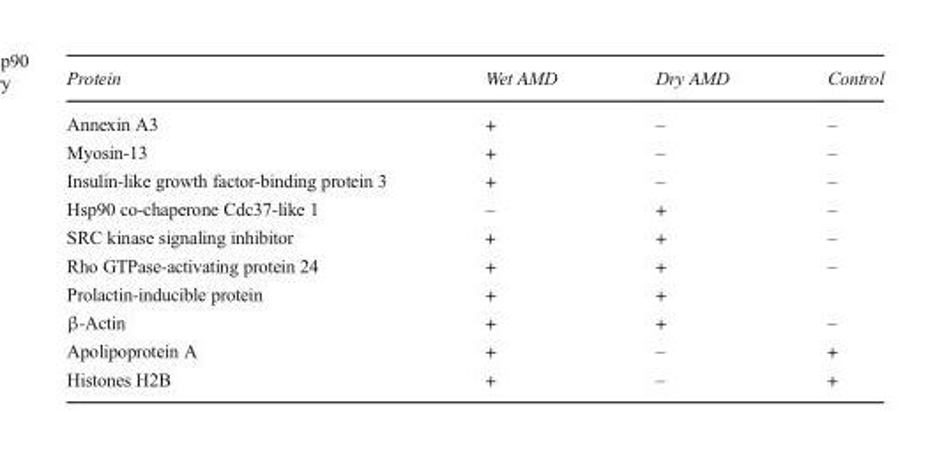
<table><thead><tr><td>Protein</td><td>Wet AMD</td><td>Dry AMD</td><td>Control</td></tr></thead><tbody><tr><td>Annexin A3</td><td>+</td><td>–</td><td>–</td></tr><tr><td>Myosin-13</td><td>+</td><td>–</td><td>–</td></tr><tr><td>Insulin-like growth factor-binding protein 3</td><td>+</td><td>–</td><td>–</td></tr><tr><td>Hsp90 co-chaperone Cdc37-like 1</td><td>–</td><td>+</td><td>–</td></tr><tr><td>SRC kinase signaling inhibitor</td><td>+</td><td>+</td><td>–</td></tr><tr><td>Rho GTPase-activating protein 24</td><td>+</td><td>+</td><td>–</td></tr><tr><td>Prolactin-inducible protein</td><td>+</td><td>+</td><td></td></tr><tr><td>β-Actin</td><td>+</td><td>+</td><td>–</td></tr><tr><td>Apolipoprotein A</td><td>+</td><td>–</td><td>+</td></tr><tr><td>Histones H2B</td><td>+</td><td>–</td><td>+</td></tr></tbody></table>